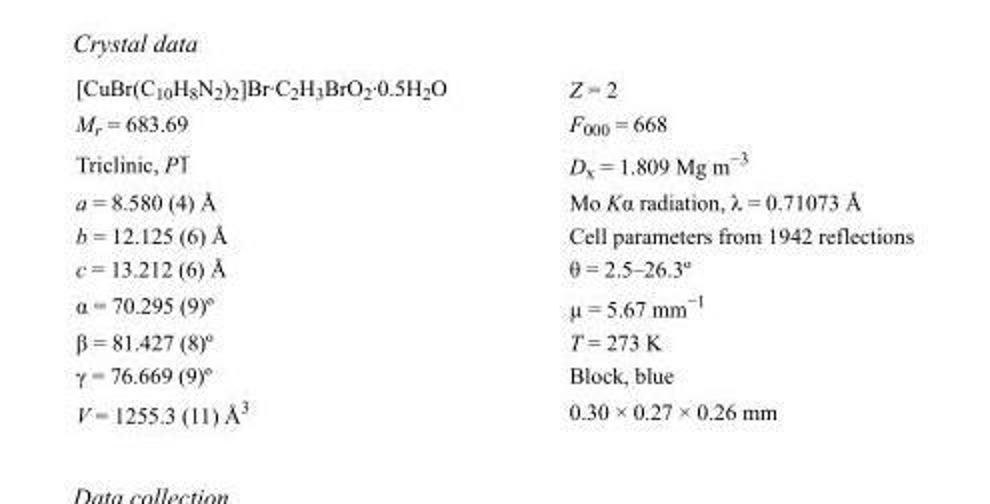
<table><tbody><tr><td>[CuBr(C<sub>10</sub>H<sub>8</sub>N<sub>2</sub>)<sub>2</sub>]Br·C<sub>2</sub>H<sub>3</sub>BrO<sub>2</sub>·0.5H<sub>2</sub>O</td><td>Z = 2</td></tr><tr><td>M<sub>r</sub> = 683.69</td><td>F000 = 668</td></tr><tr><td>Triclinic, P1</td><td>D<sub>x</sub> = 1.809 Mg m<sup>−3</sup></td></tr><tr><td>a = 8.580 (4) Å</td><td>Mo Kα radiation, λ = 0.71073 Å</td></tr><tr><td>b = 12.125 (6) Å</td><td>Cell parameters from 1942 reflections</td></tr><tr><td>c = 13.212 (6) Å</td><td>θ = 2.5–26.3º</td></tr><tr><td>α = 70.295 (9)º</td><td>µ = 5.67 mm<sup>−1</sup></td></tr><tr><td>β = 81.427 (8)º</td><td>T = 273 K</td></tr><tr><td>γ = 76.669 (9)º</td><td>Block, blue</td></tr><tr><td>V = 1255.3 (11) Å<sup>3</sup></td><td>0.30 × 0.27 × 0.26 mm</td></tr></tbody></table>